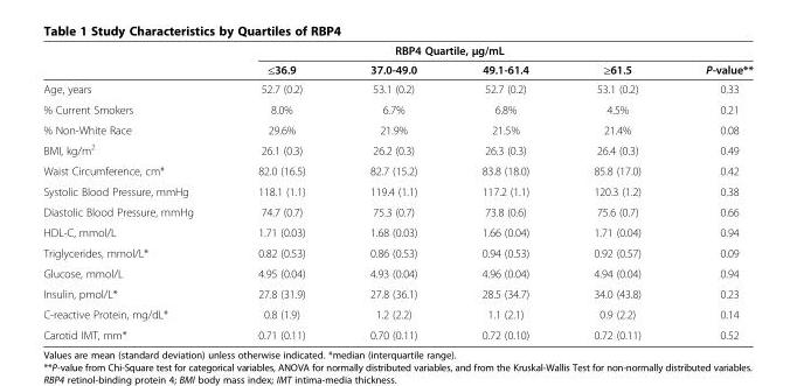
<table><thead><tr><td rowspan="2"></td><td colspan="4">RBP4 Quartile, μg/mL</td><td rowspan="2">P-value**</td></tr><tr><td>≤36.9</td><td>37.0-49.0</td><td>49.1-61.4</td><td>≥61.5</td></tr></thead><tbody><tr><td>Age, years</td><td>52.7 (0.2)</td><td>53.1 (0.2)</td><td>52.7 (0.2)</td><td>53.1 (0.2)</td><td>0.33</td></tr><tr><td>% Current Smokers</td><td>8.0%</td><td>6.7%</td><td>6.8%</td><td>4.5%</td><td>0.21</td></tr><tr><td>% Non-White Race</td><td>29.6%</td><td>21.9%</td><td>21.5%</td><td>21.4%</td><td>0.08</td></tr><tr><td>BMI, kg/m<sup>2</sup></td><td>26.1 (0.3)</td><td>26.2 (0.3)</td><td>26.3 (0.3)</td><td>26.4 (0.3)</td><td>0.49</td></tr><tr><td>Waist Circumference, cm*</td><td>82.0 (16.5)</td><td>82.7 (15.2)</td><td>83.8 (18.0)</td><td>85.8 (17.0)</td><td>0.42</td></tr><tr><td>Systolic Blood Pressure, mmHg</td><td>118.1 (1.1)</td><td>119.4 (1.1)</td><td>117.2 (1.1)</td><td>120.3 (1.2)</td><td>0.38</td></tr><tr><td>Diastolic Blood Pressure, mmHg</td><td>74.7 (0.7)</td><td>75.3 (0.7)</td><td>73.8 (0.6)</td><td>75.6 (0.7)</td><td>0.66</td></tr><tr><td>HDL-C, mmol/L</td><td>1.71 (0.03)</td><td>1.68 (0.03)</td><td>1.66 (0.04)</td><td>1.71 (0.04)</td><td>0.94</td></tr><tr><td>Triglycerides, mmol/L*</td><td>0.82 (0.53)</td><td>0.86 (0.53)</td><td>0.94 (0.53)</td><td>0.92 (0.57)</td><td>0.09</td></tr><tr><td>Glucose, mmol/L</td><td>4.95 (0.04)</td><td>4.93 (0.04)</td><td>4.96 (0.04)</td><td>4.94 (0.04)</td><td>0.94</td></tr><tr><td>Insulin, pmol/L*</td><td>27.8 (31.9)</td><td>27.8 (36.1)</td><td>28.5 (34.7)</td><td>34.0 (43.8)</td><td>0.23</td></tr><tr><td>C-reactive Protein, mg/dL*</td><td>0.8 (1.9)</td><td>1.2 (2.2)</td><td>1.1 (2.1)</td><td>0.9 (2.2)</td><td>0.14</td></tr><tr><td>Carotid IMT, mm*</td><td>0.71 (0.11)</td><td>0.70 (0.11)</td><td>0.72 (0.10)</td><td>0.72 (0.11)</td><td>0.52</td></tr></tbody></table>